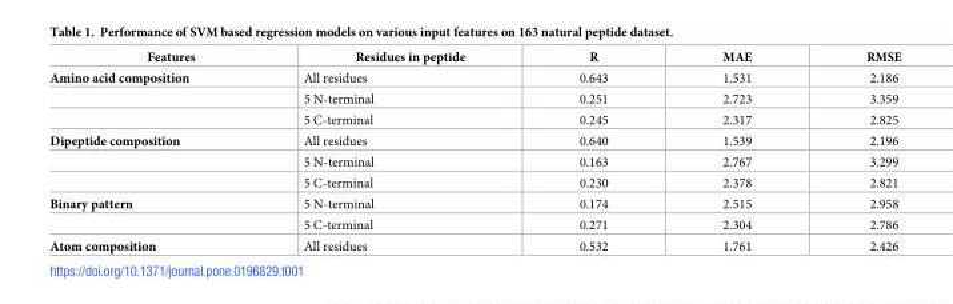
<table><thead><tr><td>Features</td><td>Residues in peptide</td><td>R</td><td>MAE</td><td>RMSE</td></tr></thead><tbody><tr><td rowspan="3">Amino acid composition</td><td>All residues</td><td>0.643</td><td>1.531</td><td>2.186</td></tr><tr><td>5 N-terminal</td><td>0.251</td><td>2.723</td><td>3.359</td></tr><tr><td>5 C-terminal</td><td>0.245</td><td>2.317</td><td>2.825</td></tr><tr><td rowspan="3">Dipeptide composition</td><td>All residues</td><td>0.640</td><td>1.539</td><td>2.196</td></tr><tr><td>5 N-terminal</td><td>0.163</td><td>2.767</td><td>3.299</td></tr><tr><td>5 C-terminal</td><td>0.230</td><td>2.378</td><td>2.821</td></tr><tr><td rowspan="2">Binary pattern</td><td>5 N-terminal</td><td>0.174</td><td>2.515</td><td>2.958</td></tr><tr><td>5 C-terminal</td><td>0.271</td><td>2.304</td><td>2.786</td></tr><tr><td>Atom composition</td><td>All residues</td><td>0.532</td><td>1.761</td><td>2.426</td></tr></tbody></table>